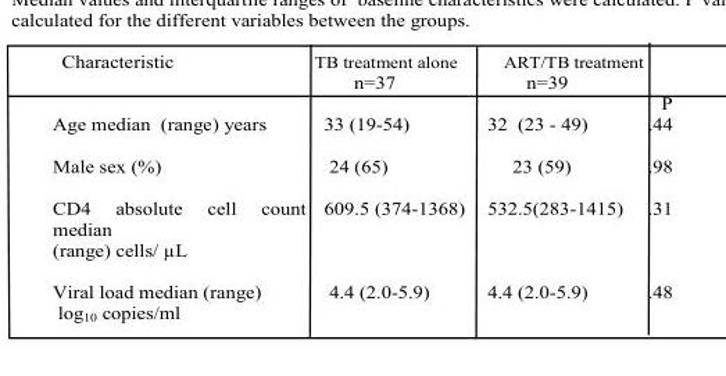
<table><thead><tr><td>Characteristic</td><td>TB treatment alone n=37</td><td>ART/TB treatment n=39</td><td>P</td></tr></thead><tbody><tr><td>Age median (range) years</td><td>33 (19-54)</td><td>32 (23 - 49)</td><td>.44</td></tr><tr><td>Male sex (%)</td><td>24 (65)</td><td>23 (59)</td><td>.98</td></tr><tr><td>CD4 absolute cell count median (range) cells/ µL</td><td>609.5 (374-1368)</td><td>532.5(283-1415)</td><td>.31</td></tr><tr><td>Viral load median (range) log<sub>10</sub> copies/ml</td><td>4.4 (2.0-5.9)</td><td>4.4 (2.0-5.9)</td><td>.48</td></tr></tbody></table>